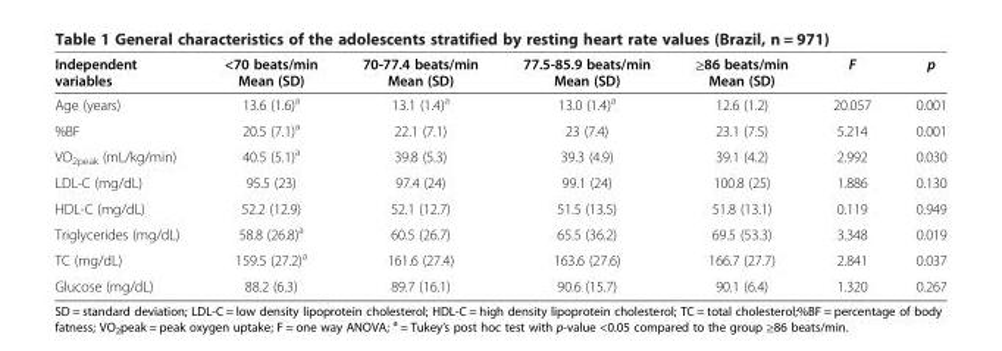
<table><thead><tr><td>Independent variables</td><td>&lt;70 beats/min Mean (SD)</td><td>70-77.4 beats/min Mean (SD)</td><td>77.5-85.9 beats/min Mean (SD)</td><td>≥86 beats/min Mean (SD)</td><td>F</td><td>p</td></tr></thead><tbody><tr><td>Age (years)</td><td>13.6 (1.6)<sup>a</sup></td><td>13.1 (1.4)<sup>a</sup></td><td>13.0 (1.4)<sup>a</sup></td><td>12.6 (1.2)</td><td>20.057</td><td>0.001</td></tr><tr><td>%BF</td><td>20.5 (7.1)<sup>a</sup></td><td>22.1 (7.1)</td><td>23 (7.4)</td><td>23.1 (7.5)</td><td>5.214</td><td>0.001</td></tr><tr><td>VO<sub>2peak</sub> (mL/kg/min)</td><td>40.5 (5.1)<sup>a</sup></td><td>39.8 (5.3)</td><td>39.3 (4.9)</td><td>39.1 (4.2)</td><td>2.992</td><td>0.030</td></tr><tr><td>LDL-C (mg/dL)</td><td>95.5 (23)</td><td>97.4 (24)</td><td>99.1 (24)</td><td>100.8 (25)</td><td>1.886</td><td>0.130</td></tr><tr><td>HDL-C (mg/dL)</td><td>52.2 (12.9)</td><td>52.1 (12.7)</td><td>51.5 (13.5)</td><td>51.8 (13.1)</td><td>0.119</td><td>0.949</td></tr><tr><td>Triglycerides (mg/dL)</td><td>58.8 (26.8)<sup>a</sup></td><td>60.5 (26.7)</td><td>65.5 (36.2)</td><td>69.5 (53.3)</td><td>3.348</td><td>0.019</td></tr><tr><td>TC (mg/dL)</td><td>159.5 (27.2)<sup>a</sup></td><td>161.6 (27.4)</td><td>163.6 (27.6)</td><td>166.7 (27.7)</td><td>2.841</td><td>0.037</td></tr><tr><td>Glucose (mg/dL)</td><td>88.2 (6.3)</td><td>89.7 (16.1)</td><td>90.6 (15.7)</td><td>90.1 (6.4)</td><td>1.320</td><td>0.267</td></tr></tbody></table>